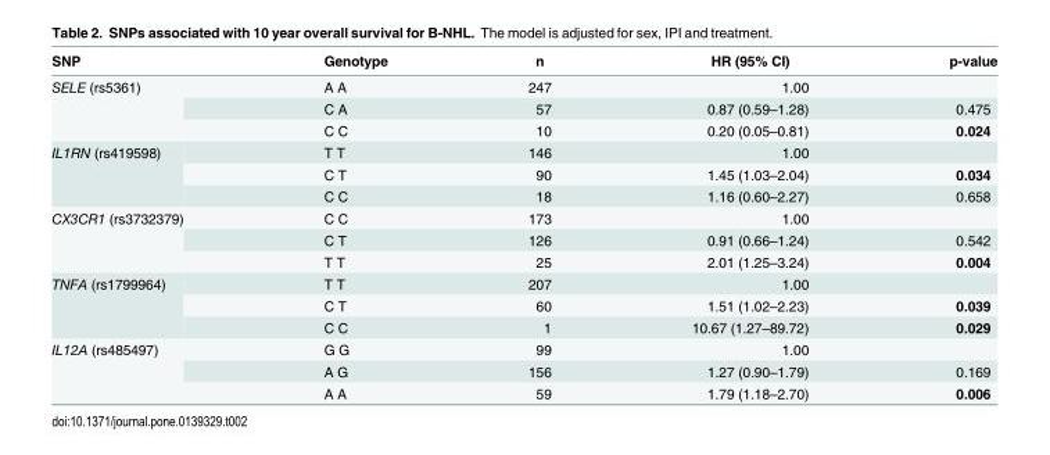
<table><thead><tr><td>SNP</td><td>Genotype</td><td>n</td><td>HR (95% CI)</td><td>p-value</td></tr></thead><tbody><tr><td rowspan="3">SELE (rs5361)</td><td>A A</td><td>247</td><td>1.00</td><td></td></tr><tr><td>C A</td><td>57</td><td>0.87 (0.59–1.28)</td><td>0.475</td></tr><tr><td>C C</td><td>10</td><td>0.20 (0.05–0.81)</td><td>0.024</td></tr><tr><td rowspan="3">IL1RN (rs419598)</td><td>T T</td><td>146</td><td>1.00</td><td></td></tr><tr><td>C T</td><td>90</td><td>1.45 (1.03–2.04)</td><td>0.034</td></tr><tr><td>C C</td><td>18</td><td>1.16 (0.60–2.27)</td><td>0.658</td></tr><tr><td rowspan="3">CX3CR1 (rs3732379)</td><td>C C</td><td>173</td><td>1.00</td><td></td></tr><tr><td>C T</td><td>126</td><td>0.91 (0.66–1.24)</td><td>0.542</td></tr><tr><td>T T</td><td>25</td><td>2.01 (1.25–3.24)</td><td>0.004</td></tr><tr><td rowspan="3">TNFA (rs1799964)</td><td>T T</td><td>207</td><td>1.00</td><td></td></tr><tr><td>C T</td><td>60</td><td>1.51 (1.02–2.23)</td><td>0.039</td></tr><tr><td>C C</td><td>1</td><td>10.67 (1.27–89.72)</td><td>0.029</td></tr><tr><td rowspan="3">IL12A (rs485497)</td><td>G G</td><td>99</td><td>1.00</td><td></td></tr><tr><td>A G</td><td>156</td><td>1.27 (0.90–1.79)</td><td>0.169</td></tr><tr><td>A A</td><td>59</td><td>1.79 (1.18–2.70)</td><td>0.006</td></tr></tbody></table>